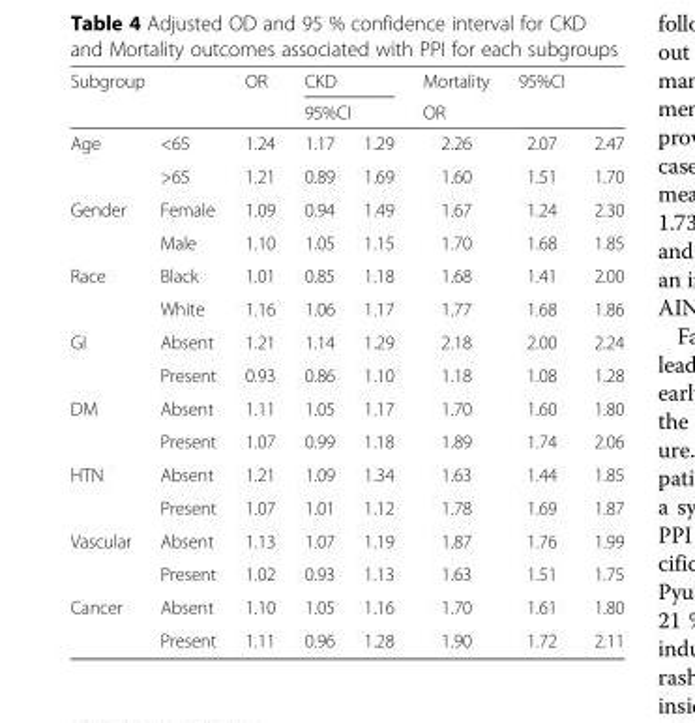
<table><thead><tr><td rowspan="2" colspan="2">Subgroup</td><td rowspan="3">OR 1.24</td><td rowspan="2" colspan="2">CKD 95%CI</td><td rowspan="3">Mortality OR 2.26</td><td rowspan="3">95%CI 2.07</td><td rowspan="3">2.47</td></tr><tr></tr><tr><td>Age</td><td>&lt;65</td><td>1.17</td><td>1.29</td></tr></thead><tbody><tr><td></td><td>&gt;65</td><td>1.21</td><td>0.89</td><td>1.69</td><td>1.60</td><td>1.51</td><td>1.70</td></tr><tr><td rowspan="2">Gender</td><td>Female</td><td>1.09</td><td>0.94</td><td>1.49</td><td>1.67</td><td>1.24</td><td>2.30</td></tr><tr><td>Male</td><td>1.10</td><td>1.05</td><td>1.15</td><td>1.70</td><td>1.68</td><td>1.85</td></tr><tr><td rowspan="2">Race</td><td>Black</td><td>1.01</td><td>0.85</td><td>1.18</td><td>1.68</td><td>1.41</td><td>2.00</td></tr><tr><td>White</td><td>1.16</td><td>1.06</td><td>1.17</td><td>1.77</td><td>1.68</td><td>1.86</td></tr><tr><td rowspan="2">GI</td><td>Absent</td><td>1.21</td><td>1.14</td><td>1.29</td><td>2.18</td><td>2.00</td><td>2.24</td></tr><tr><td>Present</td><td>0.93</td><td>0.86</td><td>1.10</td><td>1.18</td><td>1.08</td><td>1.28</td></tr><tr><td rowspan="2">DM</td><td>Absent</td><td>1.11</td><td>1.05</td><td>1.17</td><td>1.70</td><td>1.60</td><td>1.80</td></tr><tr><td>Present</td><td>1.07</td><td>0.99</td><td>1.18</td><td>1.89</td><td>1.74</td><td>2.06</td></tr><tr><td rowspan="2">HTN</td><td>Absent</td><td>1.21</td><td>1.09</td><td>1.34</td><td>1.63</td><td>1.44</td><td>1.85</td></tr><tr><td>Present</td><td>1.07</td><td>1.01</td><td>1.12</td><td>1.78</td><td>1.69</td><td>1.87</td></tr><tr><td rowspan="2">Vascular</td><td>Absent</td><td>1.13</td><td>1.07</td><td>1.19</td><td>1.87</td><td>1.76</td><td>1.99</td></tr><tr><td>Present</td><td>1.02</td><td>0.93</td><td>1.13</td><td>1.63</td><td>1.51</td><td>1.75</td></tr><tr><td rowspan="2">Cancer</td><td>Absent</td><td>1.10</td><td>1.05</td><td>1.16</td><td>1.70</td><td>1.61</td><td>1.80</td></tr><tr><td>Present</td><td>1.11</td><td>0.96</td><td>1.28</td><td>1.90</td><td>1.72</td><td>2.11</td></tr></tbody></table>